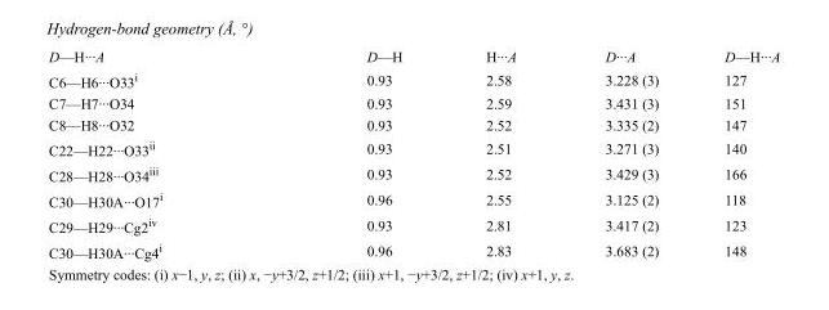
<table><tbody><tr><td>D—H···A</td><td>D—H</td><td>H···A</td><td>D···A</td><td>D—H···A</td></tr><tr><td>C6—H6···O33<sup>i</sup></td><td>0.93</td><td>2.58</td><td>3.228 (3)</td><td>127</td></tr><tr><td>C7—H7···O34</td><td>0.93</td><td>2.59</td><td>3.431 (3)</td><td>151</td></tr><tr><td>C8—H8···O32</td><td>0.93</td><td>2.52</td><td>3.335 (2)</td><td>147</td></tr><tr><td>C22—H22···O33<sup>ii</sup></td><td>0.93</td><td>2.51</td><td>3.271 (3)</td><td>140</td></tr><tr><td>C28—H28···O34<sup>iii</sup></td><td>0.93</td><td>2.52</td><td>3.429 (3)</td><td>166</td></tr><tr><td>C30—H30A···O17<sup>i</sup></td><td>0.96</td><td>2.55</td><td>3.125 (2)</td><td>118</td></tr><tr><td>C29—H29···Cg2<sup>iv</sup></td><td>0.93</td><td>2.81</td><td>3.417 (2)</td><td>123</td></tr><tr><td>C30—H30A···Cg4<sup>i</sup></td><td>0.96</td><td>2.83</td><td>3.683 (2)</td><td>148</td></tr></tbody></table>